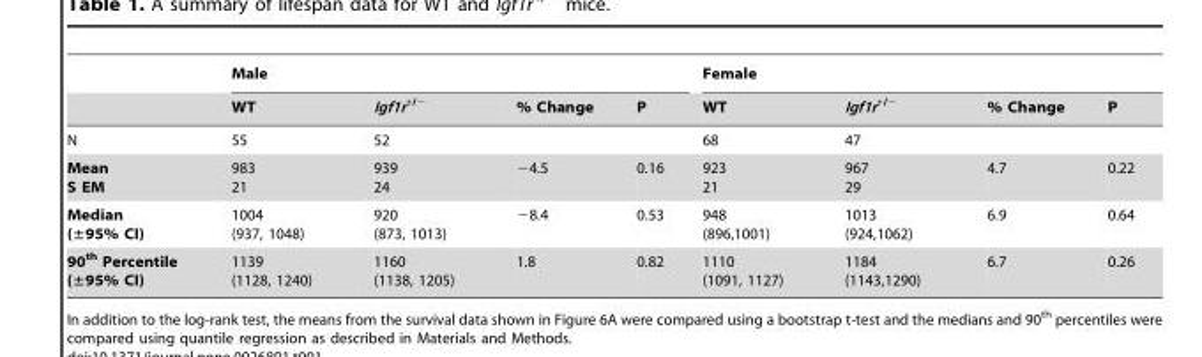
<table><thead><tr><td rowspan="2"></td><td colspan="4">Male</td><td colspan="4">Female</td></tr><tr><td>WT</td><td>Igf1r<sup>+/−</sup></td><td>% Change</td><td>P</td><td>WT</td><td>Igf1r<sup>+/−</sup></td><td>% Change</td><td>P</td></tr></thead><tbody><tr><td>N</td><td>55</td><td>52</td><td></td><td></td><td>68</td><td>47</td><td></td><td></td></tr><tr><td>Mean S EM</td><td>983 21</td><td>939 24</td><td>−4.5</td><td>0.16</td><td>923 21</td><td>967 29</td><td>4.7</td><td>0.22</td></tr><tr><td>Median (±95% CI)</td><td>1004 (937, 1048)</td><td>920 (873, 1013)</td><td>−8.4</td><td>0.53</td><td>948 (896,1001)</td><td>1013 (924,1062)</td><td>6.9</td><td>0.64</td></tr><tr><td>90<sup>th</sup> Percentile (±95% CI)</td><td>1139 (1128, 1240)</td><td>1160 (1138, 1205)</td><td>1.8</td><td>0.82</td><td>1110 (1091, 1127)</td><td>1184 (1143,1290)</td><td>6.7</td><td>0.26</td></tr></tbody></table>